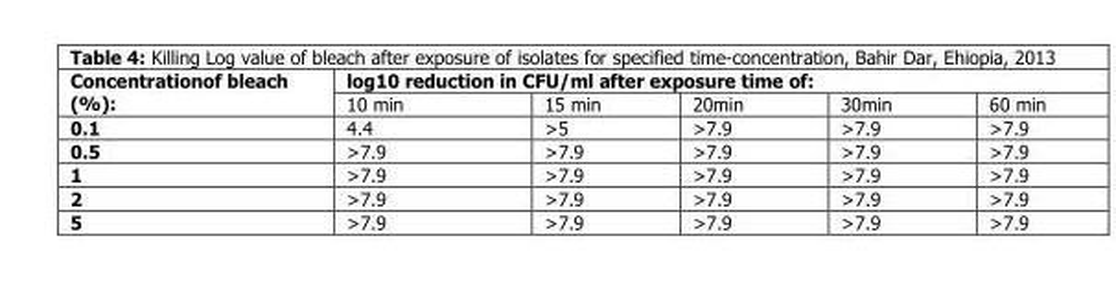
<table><thead><tr><td rowspan="2">Concentrationof bleach (%):</td><td colspan="5">log10 reduction in CFU/ml after exposure time of:</td></tr><tr><td>10 min</td><td>15 min</td><td>20min</td><td>30min</td><td>60 min</td></tr></thead><tbody><tr><td>0.1</td><td>4.4</td><td>&gt;5</td><td>&gt;7.9</td><td>&gt;7.9</td><td>&gt;7.9</td></tr><tr><td>0.5</td><td>&gt;7.9</td><td>&gt;7.9</td><td>&gt;7.9</td><td>&gt;7.9</td><td>&gt;7.9</td></tr><tr><td>1</td><td>&gt;7.9</td><td>&gt;7.9</td><td>&gt;7.9</td><td>&gt;7.9</td><td>&gt;7.9</td></tr><tr><td>2</td><td>&gt;7.9</td><td>&gt;7.9</td><td>&gt;7.9</td><td>&gt;7.9</td><td>&gt;7.9</td></tr><tr><td>5</td><td>&gt;7.9</td><td>&gt;7.9</td><td>&gt;7.9</td><td>&gt;7.9</td><td>&gt;7.9</td></tr></tbody></table>